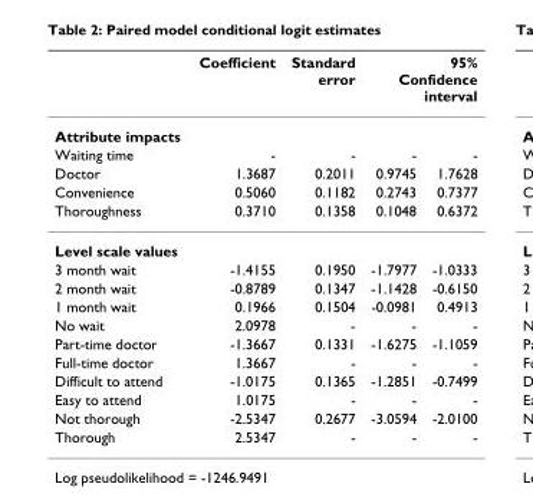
<table><thead><tr><td rowspan="2">Attribute impacts</td><td rowspan="2">Coefficient</td><td rowspan="2">Standard error</td><td colspan="2">95% Confidence interval</td></tr><tr><td></td><td></td></tr></thead><tbody><tr><td>Waiting time</td><td>-</td><td>-</td><td>-</td><td>-</td></tr><tr><td>Doctor</td><td>1.3687</td><td>0.2011</td><td>0.9745</td><td>1.7628</td></tr><tr><td>Convenience</td><td>0.5060</td><td>0.1182</td><td>0.2743</td><td>0.7377</td></tr><tr><td>Thoroughness</td><td>0.3710</td><td>0.1358</td><td>0.1048</td><td>0.6372</td></tr><tr><td colspan="5">Level scale values</td></tr><tr><td>3 month wait</td><td>-1.4155</td><td>0.1950</td><td>-1.7977</td><td>-1.0333</td></tr><tr><td>2 month wait</td><td>-0.8789</td><td>0.1347</td><td>-1.1428</td><td>-0.6150</td></tr><tr><td>1 month wait</td><td>0.1966</td><td>0.1504</td><td>-0.0981</td><td>0.4913</td></tr><tr><td>No wait</td><td>2.0978</td><td>-</td><td>-</td><td>-</td></tr><tr><td>Part-time doctor</td><td>-1.3667</td><td>0.1331</td><td>-1.6275</td><td>-1.1059</td></tr><tr><td>Full-time doctor</td><td>1.3667</td><td>-</td><td>-</td><td>-</td></tr><tr><td>Difficult to attend</td><td>-1.0175</td><td>0.1365</td><td>-1.2851</td><td>-0.7499</td></tr><tr><td>Easy to attend</td><td>1.0175</td><td>-</td><td>-</td><td>-</td></tr><tr><td>Not thorough</td><td>-2.5347</td><td>0.2677</td><td>-3.0594</td><td>-2.0100</td></tr><tr><td>Thorough</td><td>2.5347</td><td>-</td><td>-</td><td>-</td></tr></tbody></table>